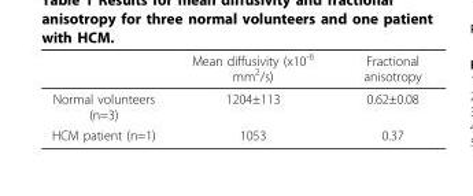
<table><thead><tr><td></td><td>Mean diffusivity (x10<sup>-6</sup> mm<sup>2</sup>/s)</td><td>Fractional anisotropy</td></tr></thead><tbody><tr><td>Normal volunteers (n=3)</td><td>1204±113</td><td>0.62±0.08</td></tr><tr><td>HCM patient (n=1)</td><td>1053</td><td>0.37</td></tr></tbody></table>